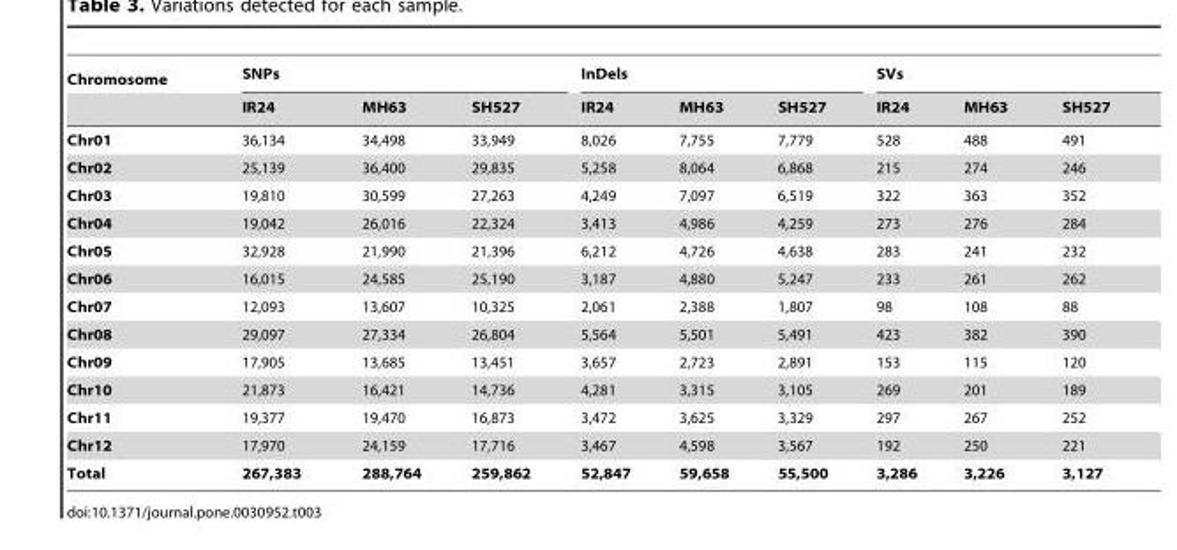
<table><thead><tr><td rowspan="2">Chromosome</td><td colspan="3">SNPs</td><td colspan="3">InDels</td><td colspan="3">SVs</td></tr><tr><td>IR24</td><td>MH63</td><td>SH527</td><td>IR24</td><td>MH63</td><td>SH527</td><td>IR24</td><td>MH63</td><td>SH527</td></tr></thead><tbody><tr><td>Chr01</td><td>36,134</td><td>34,498</td><td>33,949</td><td>8,026</td><td>7,755</td><td>7,779</td><td>528</td><td>488</td><td>491</td></tr><tr><td>Chr02</td><td>25,139</td><td>36,400</td><td>29,835</td><td>5,258</td><td>8,064</td><td>6,868</td><td>215</td><td>274</td><td>246</td></tr><tr><td>Chr03</td><td>19,810</td><td>30,599</td><td>27,263</td><td>4,249</td><td>7,097</td><td>6,519</td><td>322</td><td>363</td><td>352</td></tr><tr><td>Chr04</td><td>19,042</td><td>26,016</td><td>22,324</td><td>3,413</td><td>4,986</td><td>4,259</td><td>273</td><td>276</td><td>284</td></tr><tr><td>Chr05</td><td>32,928</td><td>21,990</td><td>21,396</td><td>6,212</td><td>4,726</td><td>4,638</td><td>283</td><td>241</td><td>232</td></tr><tr><td>Chr06</td><td>16,015</td><td>24,585</td><td>25,190</td><td>3,187</td><td>4,880</td><td>5,247</td><td>233</td><td>261</td><td>262</td></tr><tr><td>Chr07</td><td>12,093</td><td>13,607</td><td>10,325</td><td>2,061</td><td>2,388</td><td>1,807</td><td>98</td><td>108</td><td>88</td></tr><tr><td>Chr08</td><td>29,097</td><td>27,334</td><td>26,804</td><td>5,564</td><td>5,501</td><td>5,491</td><td>423</td><td>382</td><td>390</td></tr><tr><td>Chr09</td><td>17,905</td><td>13,685</td><td>13,451</td><td>3,657</td><td>2,723</td><td>2,891</td><td>153</td><td>115</td><td>120</td></tr><tr><td>Chr10</td><td>21,873</td><td>16,421</td><td>14,736</td><td>4,281</td><td>3,315</td><td>3,105</td><td>269</td><td>201</td><td>189</td></tr><tr><td>Chr11</td><td>19,377</td><td>19,470</td><td>16,873</td><td>3,472</td><td>3,625</td><td>3,329</td><td>297</td><td>267</td><td>252</td></tr><tr><td>Chr12</td><td>17,970</td><td>24,159</td><td>17,716</td><td>3,467</td><td>4,598</td><td>3,567</td><td>192</td><td>250</td><td>221</td></tr><tr><td>Total</td><td>267,383</td><td>288,764</td><td>259,862</td><td>52,847</td><td>59,658</td><td>55,500</td><td>3,286</td><td>3,226</td><td>3,127</td></tr></tbody></table>